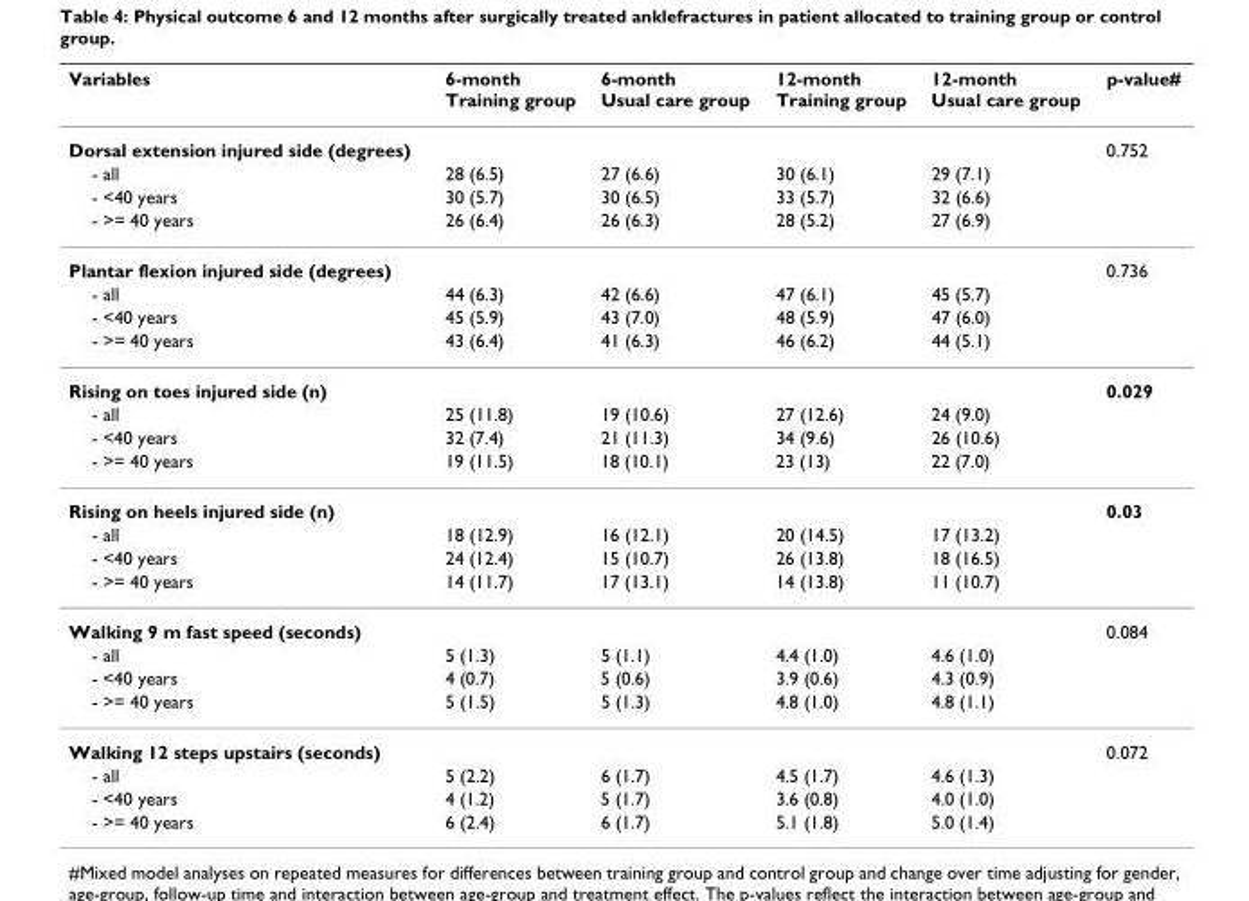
<table><thead><tr><td>Variables</td><td>6-month Training group</td><td>6-month Usual care group</td><td>12-month Training group</td><td>12-month Usual care group</td><td>p-value#</td></tr></thead><tbody><tr><td>Dorsal extension injured side (degrees)</td><td></td><td></td><td></td><td></td><td>0.752</td></tr><tr><td>- all</td><td>28 (6.5)</td><td>27 (6.6)</td><td>30 (6.1)</td><td>29 (7.1)</td><td></td></tr><tr><td>- &lt;40 years</td><td>30 (5.7)</td><td>30 (6.5)</td><td>33 (5.7)</td><td>32 (6.6)</td><td></td></tr><tr><td>- &gt;= 40 years</td><td>26 (6.4)</td><td>26 (6.3)</td><td>28 (5.2)</td><td>27 (6.9)</td><td></td></tr><tr><td>Plantar flexion injured side (degrees)</td><td></td><td></td><td></td><td></td><td>0.736</td></tr><tr><td>- all</td><td>44 (6.3)</td><td>42 (6.6)</td><td>47 (6.1)</td><td>45 (5.7)</td><td></td></tr><tr><td>- &lt;40 years</td><td>45 (5.9)</td><td>43 (7.0)</td><td>48 (5.9)</td><td>47 (6.0)</td><td></td></tr><tr><td>- &gt;= 40 years</td><td>43 (6.4)</td><td>41 (6.3)</td><td>46 (6.2)</td><td>44 (5.1)</td><td></td></tr><tr><td>Rising on toes injured side (n)</td><td></td><td></td><td></td><td></td><td>0.029</td></tr><tr><td>- all</td><td>25 (11.8)</td><td>19 (10.6)</td><td>27 (12.6)</td><td>24 (9.0)</td><td></td></tr><tr><td>- &lt;40 years</td><td>32 (7.4)</td><td>21 (11.3)</td><td>34 (9.6)</td><td>26 (10.6)</td><td></td></tr><tr><td>- &gt;= 40 years</td><td>19 (11.5)</td><td>18 (10.1)</td><td>23 (13)</td><td>22 (7.0)</td><td></td></tr><tr><td>Rising on heels injured side (n)</td><td></td><td></td><td></td><td></td><td>0.03</td></tr><tr><td>- all</td><td>18 (12.9)</td><td>16 (12.1)</td><td>20 (14.5)</td><td>17 (13.2)</td><td></td></tr><tr><td>- &lt;40 years</td><td>24 (12.4)</td><td>15 (10.7)</td><td>26 (13.8)</td><td>18 (16.5)</td><td></td></tr><tr><td>- &gt;= 40 years</td><td>14 (11.7)</td><td>17 (13.1)</td><td>14 (13.8)</td><td>11 (10.7)</td><td></td></tr><tr><td>Walking 9 m fast speed (seconds)</td><td></td><td></td><td></td><td></td><td>0.084</td></tr><tr><td>- all</td><td>5 (1.3)</td><td>5 (1.1)</td><td>4.4 (1.0)</td><td>4.6 (1.0)</td><td></td></tr><tr><td>- &lt;40 years</td><td>4 (0.7)</td><td>5 (0.6)</td><td>3.9 (0.6)</td><td>4.3 (0.9)</td><td></td></tr><tr><td>- &gt;= 40 years</td><td>5 (1.5)</td><td>5 (1.3)</td><td>4.8 (1.0)</td><td>4.8 (1.1)</td><td></td></tr><tr><td>Walking 12 steps upstairs (seconds)</td><td></td><td></td><td></td><td></td><td>0.072</td></tr><tr><td>- all</td><td>5 (2.2)</td><td>6 (1.7)</td><td>4.5 (1.7)</td><td>4.6 (1.3)</td><td></td></tr><tr><td>- &lt;40 years</td><td>4 (1.2)</td><td>5 (1.7)</td><td>3.6 (0.8)</td><td>4.0 (1.0)</td><td></td></tr><tr><td>- &gt;= 40 years</td><td>6 (2.4)</td><td>6 (1.7)</td><td>5.1 (1.8)</td><td>5.0 (1.4)</td><td></td></tr></tbody></table>